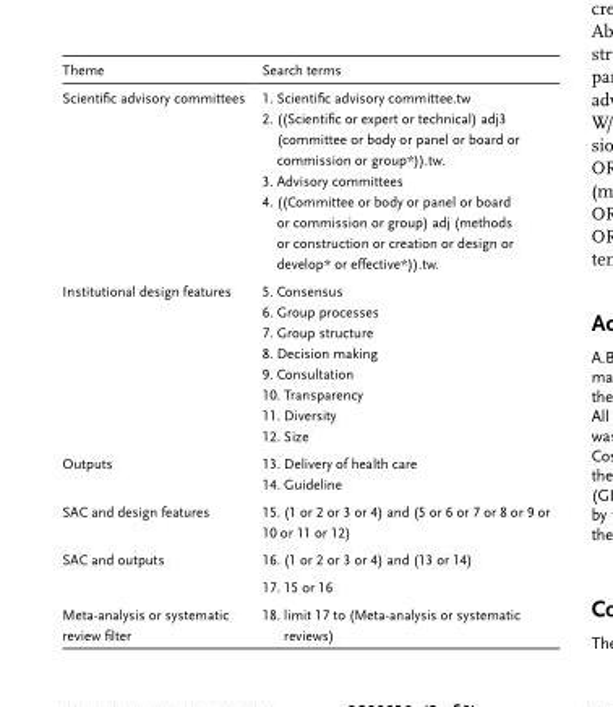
<table><thead><tr><td>Theme</td><td>Search terms</td></tr></thead><tbody><tr><td>Scientific advisory committees</td><td>1. Scientific advisory committee.tw 2. ((Scientific or expert or technical) adj3 (committee or body or panel or board or commission or group*)).tw. 3. Advisory committees 4. ((Committee or body or panel or board or commission or group) adj (methods or construction or creation or design or develop* or effective*)).tw.</td></tr><tr><td>Institutional design features</td><td>5. Consensus 6. Group processes 7. Group structure 8. Decision making 9. Consultation 10. Transparency 11. Diversity 12. Size</td></tr><tr><td>Outputs</td><td>13. Delivery of health care 14. Guideline</td></tr><tr><td>SAC and design features</td><td>15. (1 or 2 or 3 or 4) and (5 or 6 or 7 or 8 or 9 or 10 or 11 or 12)</td></tr><tr><td rowspan="2">SAC and outputs</td><td>16. (1 or 2 or 3 or 4) and (13 or 14)</td></tr><tr><td>17. 15 or 16</td></tr><tr><td>Meta-analysis or systematic review filter</td><td>18. limit 17 to (Meta-analysis or systematic reviews)</td></tr></tbody></table>